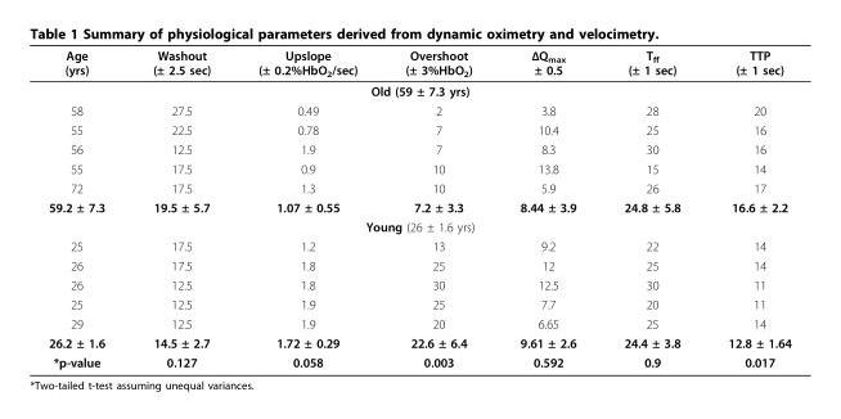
<table><thead><tr><td>Age (yrs)</td><td>Washout (± 2.5 sec)</td><td>Upslope (± 0.2%HbO<sub>2</sub>/sec)</td><td>Overshoot (± 3%HbO<sub>2</sub>)</td><td>ΔQ<sub>max</sub> ± 0.5</td><td>T<sub>ff</sub> (± 1 sec)</td><td>TTP (± 1 sec)</td></tr></thead><tbody><tr><td colspan="7">Old (59 ± 7.3 yrs)</td></tr><tr><td>58</td><td>27.5</td><td>0.49</td><td>2</td><td>3.8</td><td>28</td><td>20</td></tr><tr><td>55</td><td>22.5</td><td>0.78</td><td>7</td><td>10.4</td><td>25</td><td>16</td></tr><tr><td>56</td><td>12.5</td><td>1.9</td><td>7</td><td>8.3</td><td>30</td><td>16</td></tr><tr><td>55</td><td>17.5</td><td>0.9</td><td>10</td><td>13.8</td><td>15</td><td>14</td></tr><tr><td>72</td><td>17.5</td><td>1.3</td><td>10</td><td>5.9</td><td>26</td><td>17</td></tr><tr><td>59.2 ± 7.3</td><td>19.5 ± 5.7</td><td>1.07 ± 0.55</td><td>7.2 ± 3.3</td><td>8.44 ± 3.9</td><td>24.8 ± 5.8</td><td>16.6 ± 2.2</td></tr><tr><td colspan="7">Young (26 ± 1.6 yrs)</td></tr><tr><td>25</td><td>17.5</td><td>1.2</td><td>13</td><td>9.2</td><td>22</td><td>14</td></tr><tr><td>26</td><td>17.5</td><td>1.8</td><td>25</td><td>12</td><td>25</td><td>14</td></tr><tr><td>26</td><td>12.5</td><td>1.8</td><td>30</td><td>12.5</td><td>30</td><td>11</td></tr><tr><td>25</td><td>12.5</td><td>1.9</td><td>25</td><td>7.7</td><td>20</td><td>11</td></tr><tr><td>29</td><td>12.5</td><td>1.9</td><td>20</td><td>6.65</td><td>25</td><td>14</td></tr><tr><td>26.2 ± 1.6</td><td>14.5 ± 2.7</td><td>1.72 ± 0.29</td><td>22.6 ± 6.4</td><td>9.61 ± 2.6</td><td>24.4 ± 3.8</td><td>12.8 ± 1.64</td></tr><tr><td>*p-value</td><td>0.127</td><td>0.058</td><td>0.003</td><td>0.592</td><td>0.9</td><td>0.017</td></tr></tbody></table>